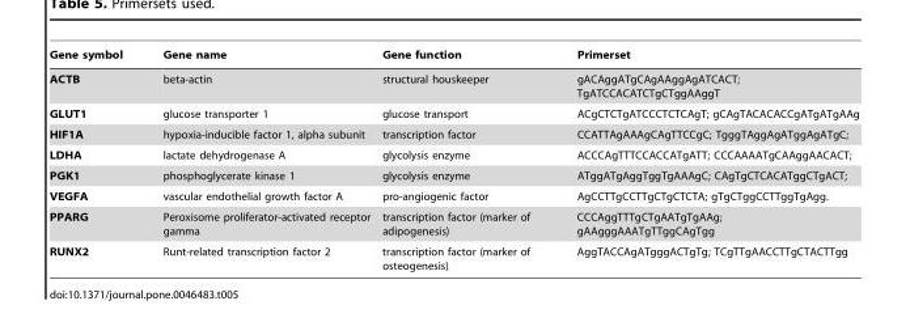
<table><thead><tr><td>Gene symbol</td><td>Gene name</td><td>Gene function</td><td>Primerset</td></tr></thead><tbody><tr><td>ACTB</td><td>beta-actin</td><td>structural houskeeper</td><td>gACAggATgCAgAAggAgATCACT; TgATCCACATCTgCTggAAggT</td></tr><tr><td>GLUT1</td><td>glucose transporter 1</td><td>glucose transport</td><td>ACgCTCTgATCCCTCTCAgT; gCAgTACACACCgATgATgAAg</td></tr><tr><td>HIF1A</td><td>hypoxia-inducible factor 1, alpha subunit</td><td>transcription factor</td><td>CCATTAgAAAgCAgTTCCgC; TgggTAggAgATggAgATgC;</td></tr><tr><td>LDHA</td><td>lactate dehydrogenase A</td><td>glycolysis enzyme</td><td>ACCCAgTTTCCACCATgATT; CCCAAAATgCAAggAACACT;</td></tr><tr><td>PGK1</td><td>phosphoglycerate kinase 1</td><td>glycolysis enzyme</td><td>ATggATgAggTggTgAAAgC; CAgTgCTCACATggCTgACT;</td></tr><tr><td>VEGFA</td><td>vascular endothelial growth factor A</td><td>pro-angiogenic factor</td><td>AgCCTTgCCTTgCTgCTCTA; gTgCTggCCTTggTgAgg.</td></tr><tr><td>PPARG</td><td>Peroxisome proliferator-activated receptor gamma</td><td>transcription factor (marker of adipogenesis)</td><td>CCCAggTTTgCTgAATgTgAAg; gAAgggAAATgTTggCAgTgg</td></tr><tr><td>RUNX2</td><td>Runt-related transcription factor 2</td><td>transcription factor (marker of osteogenesis)</td><td>AggTACCAgATgggACTgTg; TCgTTgAACCTTgCTACTTgg</td></tr></tbody></table>